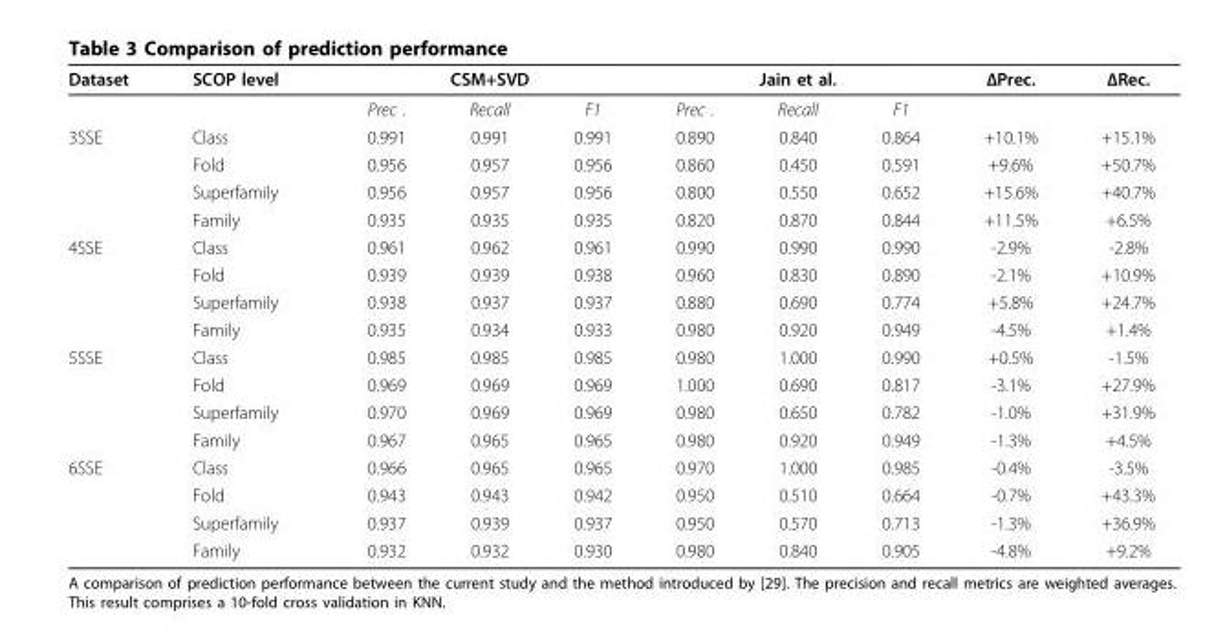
<table><thead><tr><td rowspan="2">Dataset</td><td rowspan="2">SCOP level</td><td colspan="3">CSM+SVD</td><td colspan="3">Jain et al.</td><td rowspan="2">ΔPrec.</td><td rowspan="2">ΔRec.</td></tr><tr><td>Prec .</td><td>Recall</td><td>F1</td><td>Prec .</td><td>Recall</td><td>F1</td></tr></thead><tbody><tr><td rowspan="4">3SSE</td><td>Class</td><td>0.991</td><td>0.991</td><td>0.991</td><td>0.890</td><td>0.840</td><td>0.864</td><td>+10.1%</td><td>+15.1%</td></tr><tr><td>Fold</td><td>0.956</td><td>0.957</td><td>0.956</td><td>0.860</td><td>0.450</td><td>0.591</td><td>+9.6%</td><td>+50.7%</td></tr><tr><td>Superfamily</td><td>0.956</td><td>0.957</td><td>0.956</td><td>0.800</td><td>0.550</td><td>0.652</td><td>+15.6%</td><td>+40.7%</td></tr><tr><td>Family</td><td>0.935</td><td>0.935</td><td>0.935</td><td>0.820</td><td>0.870</td><td>0.844</td><td>+11.5%</td><td>+6.5%</td></tr><tr><td rowspan="4">4SSE</td><td>Class</td><td>0.961</td><td>0.962</td><td>0.961</td><td>0.990</td><td>0.990</td><td>0.990</td><td>-2.9%</td><td>-2.8%</td></tr><tr><td>Fold</td><td>0.939</td><td>0.939</td><td>0.938</td><td>0.960</td><td>0.830</td><td>0.890</td><td>-2.1%</td><td>+10.9%</td></tr><tr><td>Superfamily</td><td>0.938</td><td>0.937</td><td>0.937</td><td>0.880</td><td>0.690</td><td>0.774</td><td>+5.8%</td><td>+24.7%</td></tr><tr><td>Family</td><td>0.935</td><td>0.934</td><td>0.933</td><td>0.980</td><td>0.920</td><td>0.949</td><td>-4.5%</td><td>+1.4%</td></tr><tr><td rowspan="4">5SSE</td><td>Class</td><td>0.985</td><td>0.985</td><td>0.985</td><td>0.980</td><td>1.000</td><td>0.990</td><td>+0.5%</td><td>-1.5%</td></tr><tr><td>Fold</td><td>0.969</td><td>0.969</td><td>0.969</td><td>1.000</td><td>0.690</td><td>0.817</td><td>-3.1%</td><td>+27.9%</td></tr><tr><td>Superfamily</td><td>0.970</td><td>0.969</td><td>0.969</td><td>0.980</td><td>0.650</td><td>0.782</td><td>-1.0%</td><td>+31.9%</td></tr><tr><td>Family</td><td>0.967</td><td>0.965</td><td>0.965</td><td>0.980</td><td>0.920</td><td>0.949</td><td>-1.3%</td><td>+4.5%</td></tr><tr><td rowspan="4">6SSE</td><td>Class</td><td>0.966</td><td>0.965</td><td>0.965</td><td>0.970</td><td>1.000</td><td>0.985</td><td>-0.4%</td><td>-3.5%</td></tr><tr><td>Fold</td><td>0.943</td><td>0.943</td><td>0.942</td><td>0.950</td><td>0.510</td><td>0.664</td><td>-0.7%</td><td>+43.3%</td></tr><tr><td>Superfamily</td><td>0.937</td><td>0.939</td><td>0.937</td><td>0.950</td><td>0.570</td><td>0.713</td><td>-1.3%</td><td>+36.9%</td></tr><tr><td>Family</td><td>0.932</td><td>0.932</td><td>0.930</td><td>0.980</td><td>0.840</td><td>0.905</td><td>-4.8%</td><td>+9.2%</td></tr></tbody></table>